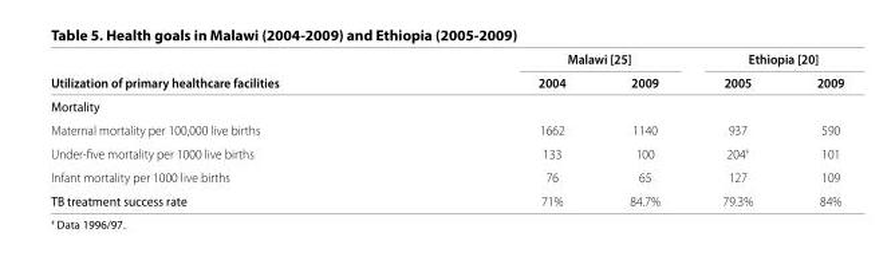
<table><thead><tr><td rowspan="2">Utilization of primary healthcare facilities</td><td colspan="2">Malawi [25]</td><td colspan="2">Ethiopia [20]</td></tr><tr><td>2004</td><td>2009</td><td>2005</td><td>2009</td></tr></thead><tbody><tr><td colspan="5">Mortality</td></tr><tr><td>Maternal mortality per 100,000 live births</td><td>1662</td><td>1140</td><td>937</td><td>590</td></tr><tr><td>Under-fi ve mortality per 1000 live births</td><td>133</td><td>100</td><td>204‡</td><td>101</td></tr><tr><td>Infant mortality per 1000 live births</td><td>76</td><td>65</td><td>127</td><td>109</td></tr><tr><td>TB treatment success rate</td><td>71%</td><td>84.7%</td><td>79.3%</td><td>84%</td></tr></tbody></table>